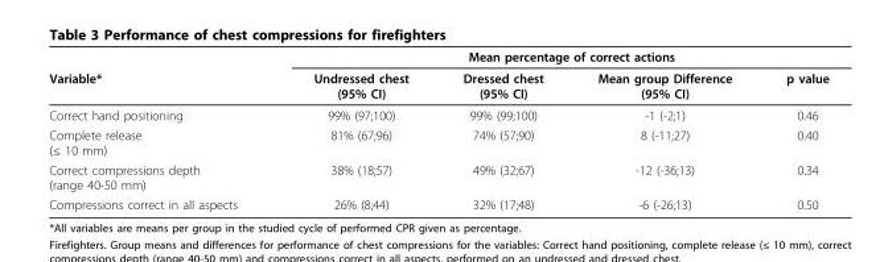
<table><thead><tr><td rowspan="2">Variable*</td><td colspan="4">Mean percentage of correct actions</td></tr><tr><td>Undressed chest (95% CI)</td><td>Dressed chest (95% CI)</td><td>Mean group Difference (95% CI)</td><td>p value</td></tr></thead><tbody><tr><td>Correct hand positioning</td><td>99% (97;100)</td><td>99% (99;100)</td><td>-1 (-2;1)</td><td>0.46</td></tr><tr><td>Complete release (≤ 10 mm)</td><td>81% (67;96)</td><td>74% (57;90)</td><td>8 (-11;27)</td><td>0.40</td></tr><tr><td>Correct compressions depth (range 40-50 mm)</td><td>38% (18;57)</td><td>49% (32;67)</td><td>-12 (-36;13)</td><td>0.34</td></tr><tr><td>Compressions correct in all aspects</td><td>26% (8;44)</td><td>32% (17;48)</td><td>-6 (-26;13)</td><td>0.50</td></tr></tbody></table>